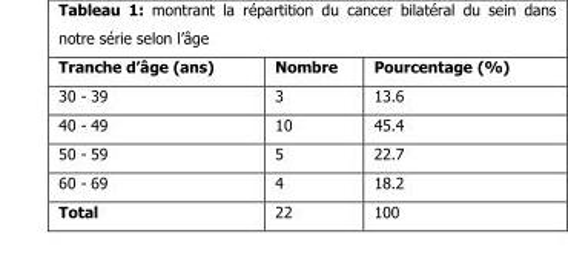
<table><thead><tr><td>Tranche d’âge (ans)</td><td>Nombre</td><td>Pourcentage (%)</td></tr></thead><tbody><tr><td>30 - 39</td><td>3</td><td>13.6</td></tr><tr><td>40 - 49</td><td>10</td><td>45.4</td></tr><tr><td>50 - 59</td><td>5</td><td>22.7</td></tr><tr><td>60 - 69</td><td>4</td><td>18.2</td></tr><tr><td>Total</td><td>22</td><td>100</td></tr></tbody></table>